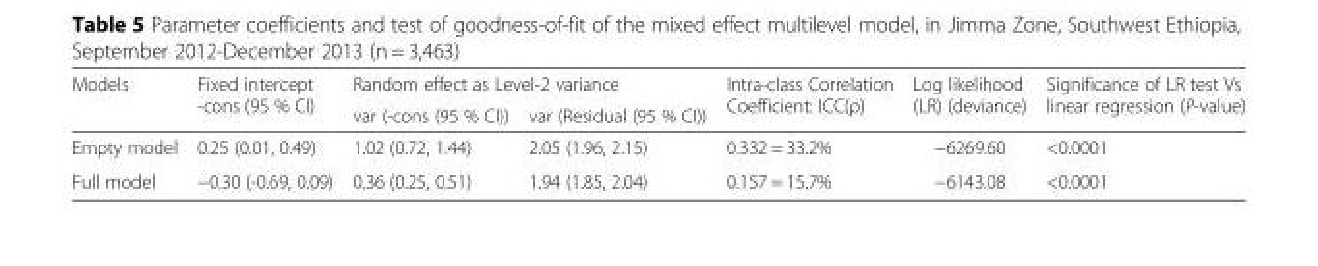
<table><thead><tr><td rowspan="2">Models</td><td rowspan="2">Fixed intercept -cons (95 % CI)</td><td colspan="2">Random effect as Level-2 variance</td><td rowspan="2">Intra-class Correlation Coefficient: ICC(ρ)</td><td rowspan="2">Log likelihood (LR) (deviance)</td><td rowspan="2">Significance of LR test Vs linear regression (P-value)</td></tr><tr><td>var (-cons (95 % CI))</td><td>var (Residual (95 % CI))</td></tr></thead><tbody><tr><td>Empty model</td><td>0.25 (0.01, 0.49)</td><td>1.02 (0.72, 1.44)</td><td>2.05 (1.96, 2.15)</td><td>0.332 = 33.2%</td><td>−6269.60</td><td>&lt;0.0001</td></tr><tr><td>Full model</td><td>−0.30 (-0.69, 0.09)</td><td>0.36 (0.25, 0.51)</td><td>1.94 (1.85, 2.04)</td><td>0.157 = 15.7%</td><td>−6143.08</td><td>&lt;0.0001</td></tr></tbody></table>